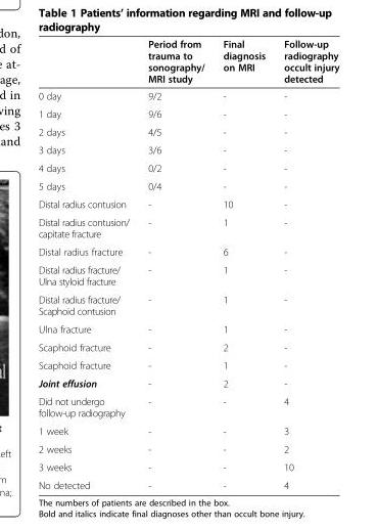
<table><thead><tr><td></td><td>Period from trauma to sonography/ MRI study</td><td>Final diagnosis on MRI</td><td>Follow-up radiography occult injury detected</td></tr></thead><tbody><tr><td>0 day</td><td>9/2</td><td>-</td><td>-</td></tr><tr><td>1 day</td><td>9/6</td><td>-</td><td>-</td></tr><tr><td>2 days</td><td>4/5</td><td>-</td><td>-</td></tr><tr><td>3 days</td><td>3/6</td><td>-</td><td>-</td></tr><tr><td>4 days</td><td>0/2</td><td>-</td><td>-</td></tr><tr><td>5 days</td><td>0/4</td><td>-</td><td>-</td></tr><tr><td>Distal radius contusion</td><td>-</td><td>10</td><td>-</td></tr><tr><td>Distal radius contusion/ capitate fracture</td><td>-</td><td>1</td><td>-</td></tr><tr><td>Distal radius fracture</td><td>-</td><td>6</td><td>-</td></tr><tr><td>Distal radius fracture/ Ulna styloid fracture</td><td>-</td><td>1</td><td>-</td></tr><tr><td>Distal radius fracture/ Scaphoid contusion</td><td>-</td><td>1</td><td>-</td></tr><tr><td>Ulna fracture</td><td>-</td><td>1</td><td>-</td></tr><tr><td>Scaphoid fracture</td><td>-</td><td>2</td><td>-</td></tr><tr><td>Scaphoid fracture</td><td>-</td><td>1</td><td>-</td></tr><tr><td>Joint effusion</td><td>-</td><td>2</td><td>-</td></tr><tr><td>Did not undergo follow-up radiography</td><td>-</td><td>-</td><td>4</td></tr><tr><td>1 week</td><td>-</td><td>-</td><td>3</td></tr><tr><td>2 weeks</td><td>-</td><td>-</td><td>2</td></tr><tr><td>3 weeks</td><td>-</td><td>-</td><td>10</td></tr><tr><td>No detected</td><td>-</td><td>-</td><td>4</td></tr></tbody></table>